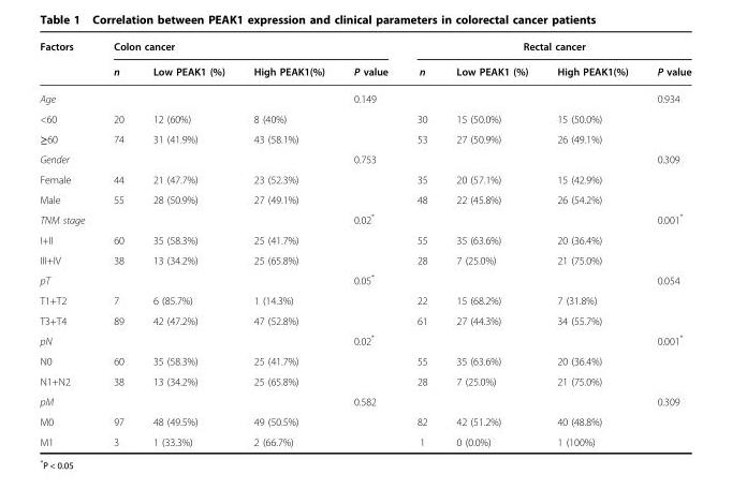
<table><thead><tr><td rowspan="2">Factors</td><td colspan="4">Colon cancer</td><td colspan="4">Rectal cancer</td></tr><tr><td>n</td><td>Low PEAK1 (%)</td><td>High PEAK1(%)</td><td>P value</td><td>n</td><td>Low PEAK1 (%)</td><td>High PEAK1(%)</td><td>P value</td></tr></thead><tbody><tr><td>Age</td><td></td><td></td><td></td><td>0.149</td><td></td><td></td><td></td><td>0.934</td></tr><tr><td>&lt;60</td><td>20</td><td>12 (60%)</td><td>8 (40%)</td><td></td><td>30</td><td>15 (50.0%)</td><td>15 (50.0%)</td><td></td></tr><tr><td>≥60</td><td>74</td><td>31 (41.9%)</td><td>43 (58.1%)</td><td></td><td>53</td><td>27 (50.9%)</td><td>26 (49.1%)</td><td></td></tr><tr><td>Gender</td><td></td><td></td><td></td><td>0.753</td><td></td><td></td><td></td><td>0.309</td></tr><tr><td>Female</td><td>44</td><td>21 (47.7%)</td><td>23 (52.3%)</td><td></td><td>35</td><td>20 (57.1%)</td><td>15 (42.9%)</td><td></td></tr><tr><td>Male</td><td>55</td><td>28 (50.9%)</td><td>27 (49.1%)</td><td></td><td>48</td><td>22 (45.8%)</td><td>26 (54.2%)</td><td></td></tr><tr><td>TNM stage</td><td></td><td></td><td></td><td>0.02*</td><td></td><td></td><td></td><td>0.001*</td></tr><tr><td>I+II</td><td>60</td><td>35 (58.3%)</td><td>25 (41.7%)</td><td></td><td>55</td><td>35 (63.6%)</td><td>20 (36.4%)</td><td></td></tr><tr><td>III+IV</td><td>38</td><td>13 (34.2%)</td><td>25 (65.8%)</td><td></td><td>28</td><td>7 (25.0%)</td><td>21 (75.0%)</td><td></td></tr><tr><td>pT</td><td></td><td></td><td></td><td>0.05*</td><td></td><td></td><td></td><td>0.054</td></tr><tr><td>T1+T2</td><td>7</td><td>6 (85.7%)</td><td>1 (14.3%)</td><td></td><td>22</td><td>15 (68.2%)</td><td>7 (31.8%)</td><td></td></tr><tr><td>T3+T4</td><td>89</td><td>42 (47.2%)</td><td>47 (52.8%)</td><td></td><td>61</td><td>27 (44.3%)</td><td>34 (55.7%)</td><td></td></tr><tr><td>pN</td><td></td><td></td><td></td><td>0.02*</td><td></td><td></td><td></td><td>0.001*</td></tr><tr><td>N0</td><td>60</td><td>35 (58.3%)</td><td>25 (41.7%)</td><td></td><td>55</td><td>35 (63.6%)</td><td>20 (36.4%)</td><td></td></tr><tr><td>N1+N2</td><td>38</td><td>13 (34.2%)</td><td>25 (65.8%)</td><td></td><td>28</td><td>7 (25.0%)</td><td>21 (75.0%)</td><td></td></tr><tr><td>pM</td><td></td><td></td><td></td><td>0.582</td><td></td><td></td><td></td><td>0.309</td></tr><tr><td>M0</td><td>97</td><td>48 (49.5%)</td><td>49 (50.5%)</td><td></td><td>82</td><td>42 (51.2%)</td><td>40 (48.8%)</td><td></td></tr><tr><td>M1</td><td>3</td><td>1 (33.3%)</td><td>2 (66.7%)</td><td></td><td>1</td><td>0 (0.0%)</td><td>1 (100%)</td><td></td></tr></tbody></table>